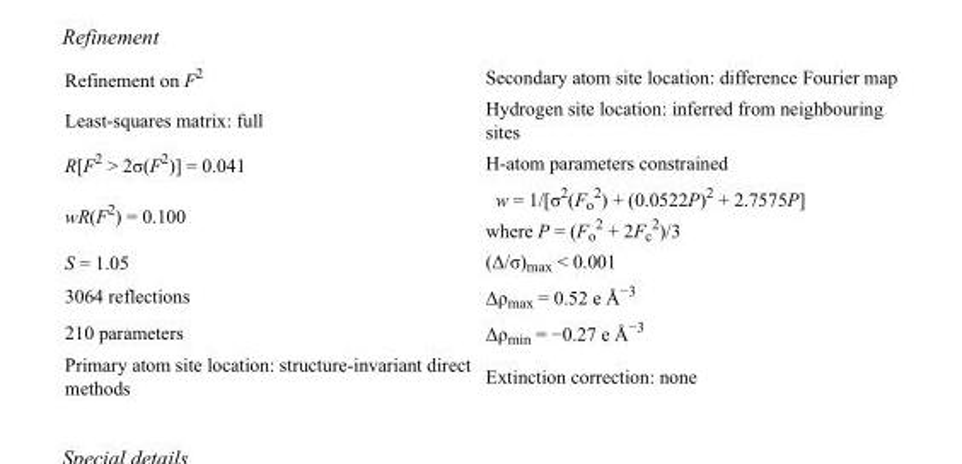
<table><tbody><tr><td>Refinement on F<sup>2</sup></td><td>Secondary atom site location: difference Fourier map</td></tr><tr><td>Least-squares matrix: full</td><td>Hydrogen site location: inferred from neighbouring sites</td></tr><tr><td>R[F<sup>2</sup> &gt; 2σ(F<sup>2</sup>)] = 0.041</td><td>H-atom parameters constrained</td></tr><tr><td>wR(F<sup>2</sup>) = 0.100</td><td>w = 1/[σ<sup>2</sup>(F<sub>o</sub> <sup>2</sup>) + (0.0522P)<sup>2</sup> + 2.7575P] where P = (F<sub>o</sub> <sup>2</sup> + 2F<sub>c</sub> <sup>2</sup>)/3</td></tr><tr><td>S = 1.05</td><td>(Δ/σ)<sub>max</sub> &lt; 0.001</td></tr><tr><td>3064 reflections</td><td>Δρ<sub>max</sub> = 0.52 e Å<sup>−3</sup></td></tr><tr><td>210 parameters</td><td>Δρ<sub>min</sub> = −0.27 e Å<sup>−3</sup></td></tr><tr><td>Primary atom site location: structure-invariant direct methods</td><td>Extinction correction: none</td></tr></tbody></table>